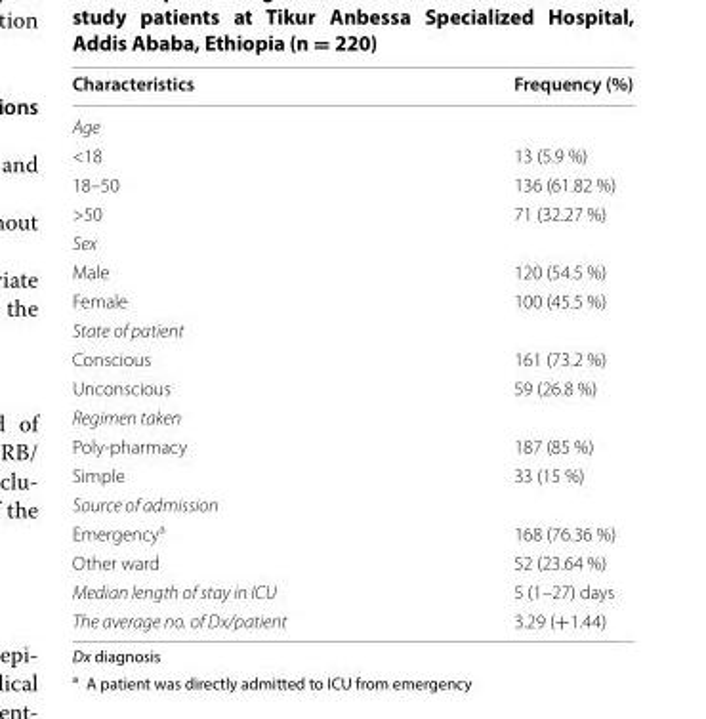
<table><thead><tr><td>Characteristics</td><td>Frequency (%)</td></tr></thead><tbody><tr><td colspan="2">Age</td></tr><tr><td>&lt;18</td><td>13 (5.9 %)</td></tr><tr><td>18–50</td><td>136 (61.82 %)</td></tr><tr><td>&gt;50</td><td>71 (32.27 %)</td></tr><tr><td colspan="2">Sex</td></tr><tr><td>Male</td><td>120 (54.5 %)</td></tr><tr><td>Female</td><td>100 (45.5 %)</td></tr><tr><td colspan="2">State of patient</td></tr><tr><td>Conscious</td><td>161 (73.2 %)</td></tr><tr><td>Unconscious</td><td>59 (26.8 %)</td></tr><tr><td colspan="2">Regimen taken</td></tr><tr><td>Poly-pharmacy</td><td>187 (85 %)</td></tr><tr><td>Simple</td><td>33 (15 %)</td></tr><tr><td colspan="2">Source of admission</td></tr><tr><td>Emergency<sup>a</sup></td><td>168 (76.36 %)</td></tr><tr><td>Other ward</td><td>52 (23.64 %)</td></tr><tr><td>Median length of stay in ICU</td><td>5 (1–27) days</td></tr><tr><td>The average no. of Dx/patient</td><td>3.29 (+1.44)</td></tr></tbody></table>